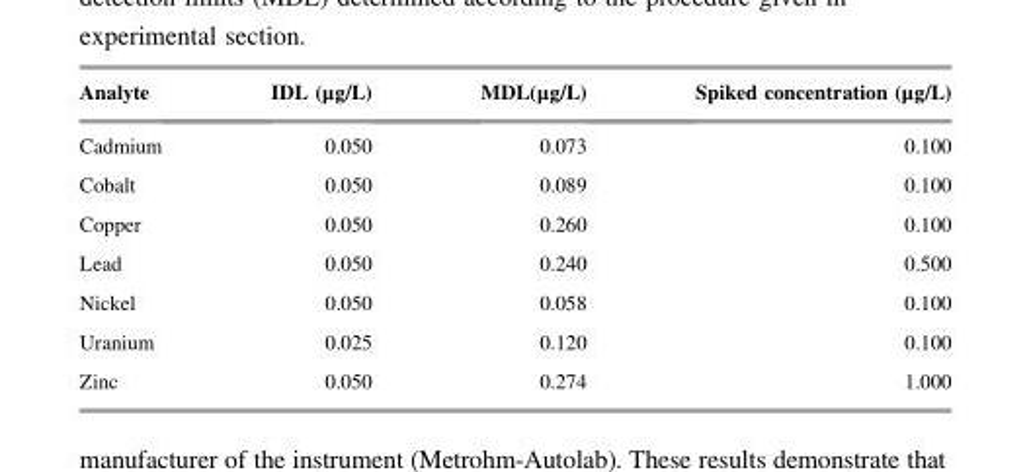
<table><thead><tr><td>Analyte</td><td>IDL (μg/L)</td><td>MDL(μg/L)</td><td>Spiked concentration (μg/L)</td></tr></thead><tbody><tr><td>Cadmium</td><td>0.050</td><td>0.073</td><td>0.100</td></tr><tr><td>Cobalt</td><td>0.050</td><td>0.089</td><td>0.100</td></tr><tr><td>Copper</td><td>0.050</td><td>0.260</td><td>0.100</td></tr><tr><td>Lead</td><td>0.050</td><td>0.240</td><td>0.500</td></tr><tr><td>Nickel</td><td>0.050</td><td>0.058</td><td>0.100</td></tr><tr><td>Uranium</td><td>0.025</td><td>0.120</td><td>0.100</td></tr><tr><td>Zinc</td><td>0.050</td><td>0.274</td><td>1.000</td></tr></tbody></table>